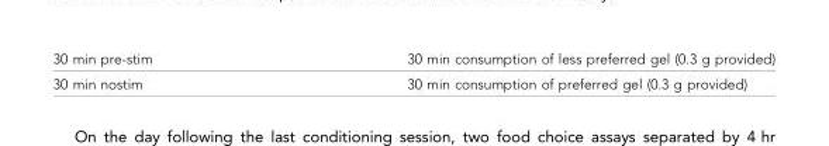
<table><tbody><tr><td>30 min pre-stim</td><td>30 min consumption of less preferred gel (0.3 g provided)</td></tr><tr><td>30 min nostim</td><td>30 min consumption of preferred gel (0.3 g provided)</td></tr></tbody></table>